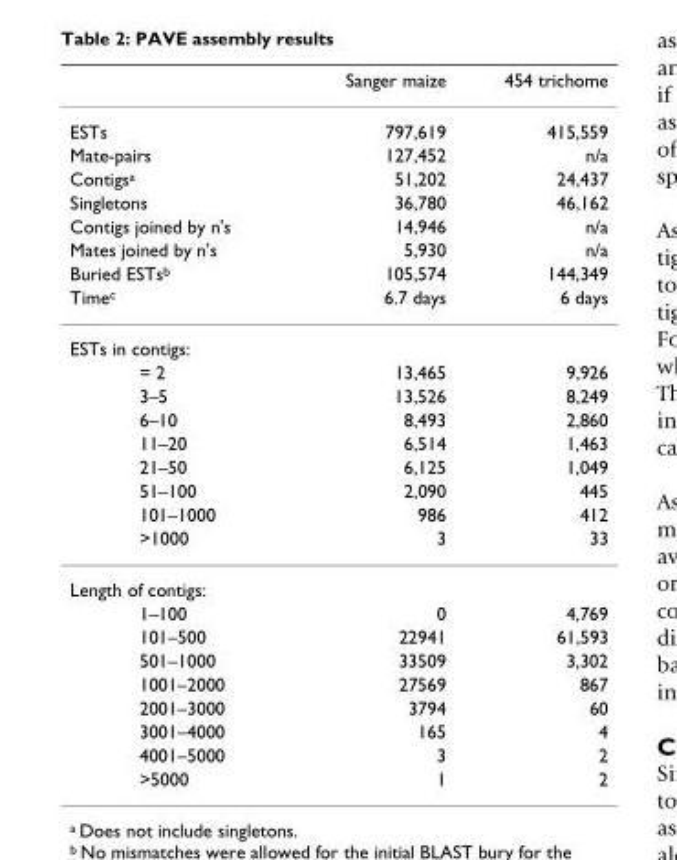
<table><thead><tr><td></td><td>Sanger maize</td><td>454 trichome</td></tr></thead><tbody><tr><td>ESTs</td><td>797,619</td><td>415,559</td></tr><tr><td>Mate-pairs</td><td>127,452</td><td>n/a</td></tr><tr><td>Contigs<sup>a</sup></td><td>51,202</td><td>24,437</td></tr><tr><td>Singletons</td><td>36,780</td><td>46,162</td></tr><tr><td>Contigs joined by n&#x27;s</td><td>14,946</td><td>n/a</td></tr><tr><td>Mates joined by n&#x27;s</td><td>5,930</td><td>n/a</td></tr><tr><td>Buried ESTs<sup>b</sup></td><td>105,574</td><td>144,349</td></tr><tr><td>Time<sup>c</sup></td><td>6.7 days</td><td>6 days</td></tr><tr><td colspan="3">ESTs in contigs:</td></tr><tr><td>= 2</td><td>13,465</td><td>9,926</td></tr><tr><td>3–5</td><td>13,526</td><td>8,249</td></tr><tr><td>6–10</td><td>8,493</td><td>2,860</td></tr><tr><td>11–20</td><td>6,514</td><td>1,463</td></tr><tr><td>21–50</td><td>6,125</td><td>1,049</td></tr><tr><td>51–100</td><td>2,090</td><td>445</td></tr><tr><td>101–1000</td><td>986</td><td>412</td></tr><tr><td>&gt;1000</td><td>3</td><td>33</td></tr><tr><td colspan="3">Length of contigs:</td></tr><tr><td>1–100</td><td>0</td><td>4,769</td></tr><tr><td>101–500</td><td>22941</td><td>61,593</td></tr><tr><td>501–1000</td><td>33509</td><td>3,302</td></tr><tr><td>1001–2000</td><td>27569</td><td>867</td></tr><tr><td>2001–3000</td><td>3794</td><td>60</td></tr><tr><td>3001–4000</td><td>165</td><td>4</td></tr><tr><td>4001–5000</td><td>3</td><td>2</td></tr><tr><td>&gt;5000</td><td>1</td><td>2</td></tr></tbody></table>